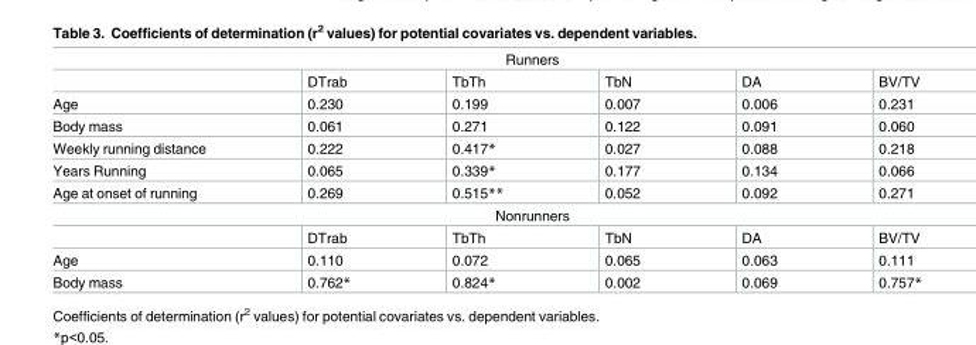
<table><tbody><tr><td colspan="6">Runners</td></tr><tr><td></td><td>DTrab</td><td>TbTh</td><td>TbN</td><td>DA</td><td>BV/TV</td></tr><tr><td>Age</td><td>0.230</td><td>0.199</td><td>0.007</td><td>0.006</td><td>0.231</td></tr><tr><td>Body mass</td><td>0.061</td><td>0.271</td><td>0.122</td><td>0.091</td><td>0.060</td></tr><tr><td>Weekly running distance</td><td>0.222</td><td>0.417*</td><td>0.027</td><td>0.088</td><td>0.218</td></tr><tr><td>Years Running</td><td>0.065</td><td>0.339*</td><td>0.177</td><td>0.134</td><td>0.066</td></tr><tr><td>Age at onset of running</td><td>0.269</td><td>0.515**</td><td>0.052</td><td>0.092</td><td>0.271</td></tr><tr><td colspan="6">Nonrunners</td></tr><tr><td></td><td>DTrab</td><td>TbTh</td><td>TbN</td><td>DA</td><td>BV/TV</td></tr><tr><td>Age</td><td>0.110</td><td>0.072</td><td>0.065</td><td>0.063</td><td>0.111</td></tr><tr><td>Body mass</td><td>0.762*</td><td>0.824*</td><td>0.002</td><td>0.069</td><td>0.757*</td></tr></tbody></table>